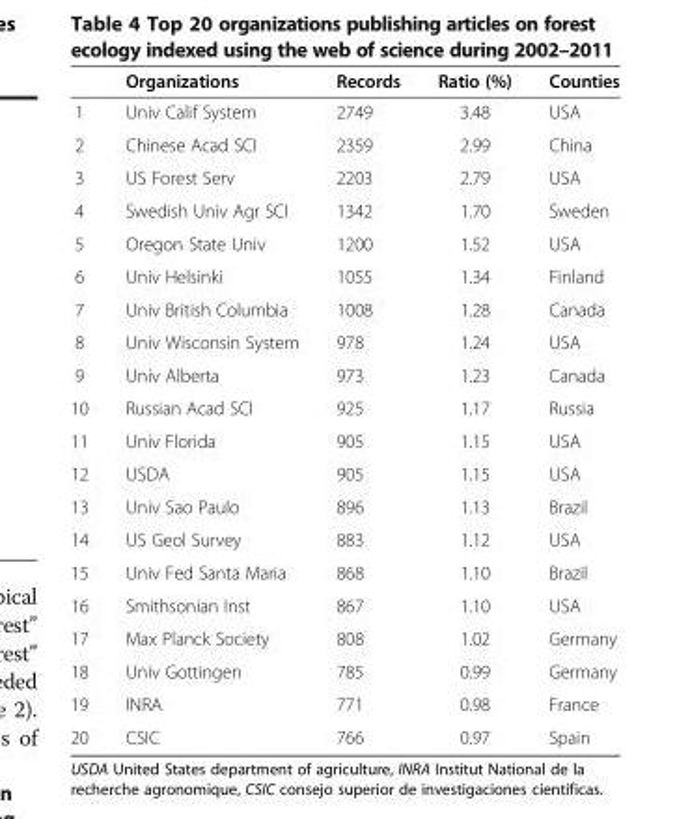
<table><thead><tr><td></td><td>Organizations</td><td>Records</td><td>Ratio (%)</td><td>Counties</td></tr></thead><tbody><tr><td>1</td><td>Univ Calif System</td><td>2749</td><td>3.48</td><td>USA</td></tr><tr><td>2</td><td>Chinese Acad SCI</td><td>2359</td><td>2.99</td><td>China</td></tr><tr><td>3</td><td>US Forest Serv</td><td>2203</td><td>2.79</td><td>USA</td></tr><tr><td>4</td><td>Swedish Univ Agr SCI</td><td>1342</td><td>1.70</td><td>Sweden</td></tr><tr><td>5</td><td>Oregon State Univ</td><td>1200</td><td>1.52</td><td>USA</td></tr><tr><td>6</td><td>Univ Helsinki</td><td>1055</td><td>1.34</td><td>Finland</td></tr><tr><td>7</td><td>Univ British Columbia</td><td>1008</td><td>1.28</td><td>Canada</td></tr><tr><td>8</td><td>Univ Wisconsin System</td><td>978</td><td>1.24</td><td>USA</td></tr><tr><td>9</td><td>Univ Alberta</td><td>973</td><td>1.23</td><td>Canada</td></tr><tr><td>10</td><td>Russian Acad SCI</td><td>925</td><td>1.17</td><td>Russia</td></tr><tr><td>11</td><td>Univ Florida</td><td>905</td><td>1.15</td><td>USA</td></tr><tr><td>12</td><td>USDA</td><td>905</td><td>1.15</td><td>USA</td></tr><tr><td>13</td><td>Univ Sao Paulo</td><td>896</td><td>1.13</td><td>Brazil</td></tr><tr><td>14</td><td>US Geol Survey</td><td>883</td><td>1.12</td><td>USA</td></tr><tr><td>15</td><td>Univ Fed Santa Maria</td><td>868</td><td>1.10</td><td>Brazil</td></tr><tr><td>16</td><td>Smithsonian Inst</td><td>867</td><td>1.10</td><td>USA</td></tr><tr><td>17</td><td>Max Planck Society</td><td>808</td><td>1.02</td><td>Germany</td></tr><tr><td>18</td><td>Univ Gottingen</td><td>785</td><td>0.99</td><td>Germany</td></tr><tr><td>19</td><td>INRA</td><td>771</td><td>0.98</td><td>France</td></tr><tr><td>20</td><td>CSIC</td><td>766</td><td>0.97</td><td>Spain</td></tr></tbody></table>